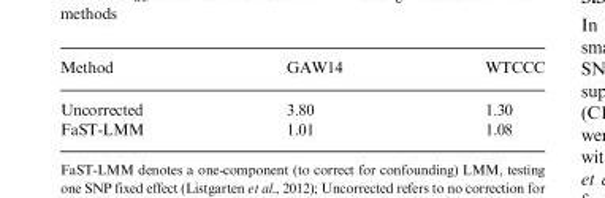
<table><thead><tr><td>Method</td><td>GAW14</td><td>WTCCC</td></tr></thead><tbody><tr><td>Uncorrected</td><td>3.80</td><td>1.30</td></tr><tr><td>FaST-LMM</td><td>1.01</td><td>1.08</td></tr></tbody></table>